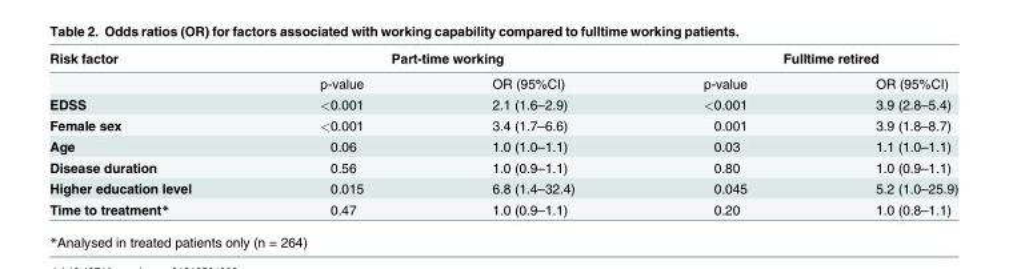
<table><thead><tr><td rowspan="2">Risk factor</td><td colspan="2">Part-time working</td><td colspan="2">Fulltime retired</td></tr><tr><td>p-value</td><td>OR (95%CI)</td><td>p-value</td><td>OR (95%CI)</td></tr></thead><tbody><tr><td>EDSS</td><td>&lt;0.001</td><td>2.1 (1.6–2.9)</td><td>&lt;0.001</td><td>3.9 (2.8–5.4)</td></tr><tr><td>Female sex</td><td>&lt;0.001</td><td>3.4 (1.7–6.6)</td><td>0.001</td><td>3.9 (1.8–8.7)</td></tr><tr><td>Age</td><td>0.06</td><td>1.0 (1.0–1.1)</td><td>0.03</td><td>1.1 (1.0–1.1)</td></tr><tr><td>Disease duration</td><td>0.56</td><td>1.0 (0.9–1.1)</td><td>0.80</td><td>1.0 (0.9–1.1)</td></tr><tr><td>Higher education level</td><td>0.015</td><td>6.8 (1.4–32.4)</td><td>0.045</td><td>5.2 (1.0–25.9)</td></tr><tr><td>Time to treatment*</td><td>0.47</td><td>1.0 (0.9–1.1)</td><td>0.20</td><td>1.0 (0.8–1.1)</td></tr></tbody></table>